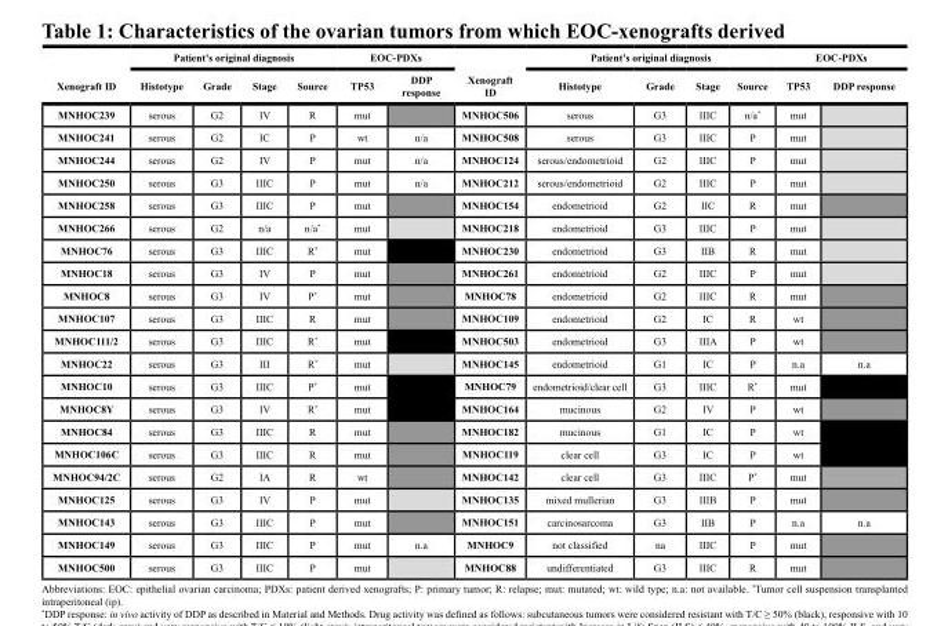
<table><thead><tr><td rowspan="2">Xenograft ID</td><td colspan="4">Patient’s original diagnosis</td><td colspan="2">EOC-PDXs</td><td rowspan="2">Xenograft ID</td><td colspan="4">Patient’s original diagnosis</td><td colspan="2">EOC-PDXs</td></tr><tr><td>Histotype</td><td>Grade</td><td>Stage</td><td>Source</td><td>TP53</td><td>DDP response</td><td>Histotype</td><td>Grade</td><td>Stage</td><td>Source</td><td>TP53</td><td>DDP response</td></tr></thead><tbody><tr><td>MNHOC239</td><td>serous</td><td>G2</td><td>IV</td><td>R</td><td>mut</td><td></td><td>MNHOC506</td><td>serous</td><td>G3</td><td>IIIC</td><td>n/a*</td><td>mut</td><td></td></tr><tr><td>MNHOC241</td><td>serous</td><td>G2</td><td>IC</td><td>P</td><td>wt</td><td>n/a</td><td>MNHOC508</td><td>serous</td><td>G3</td><td>IIIC</td><td>P</td><td>mut</td><td></td></tr><tr><td>MNHOC244</td><td>serous</td><td>G2</td><td>IV</td><td>P</td><td>mut</td><td>n/a</td><td>MNHOC124</td><td>serous/endometrioid</td><td>G2</td><td>IIIC</td><td>P</td><td>mut</td><td></td></tr><tr><td>MNHOC250</td><td>serous</td><td>G3</td><td>IIIC</td><td>P</td><td>mut</td><td>n/a</td><td>MNHOC212</td><td>serous/endometrioid</td><td>G2</td><td>IIIC</td><td>P</td><td>mut</td><td></td></tr><tr><td>MNHOC258</td><td>serous</td><td>G3</td><td>IIIC</td><td>P</td><td>mut</td><td></td><td>MNHOC154</td><td>endometrioid</td><td>G2</td><td>IIC</td><td>R</td><td>mut</td><td></td></tr><tr><td>MNHOC266</td><td>serous</td><td>G2</td><td>n/a</td><td>n/a*</td><td>mut</td><td></td><td>MNHOC218</td><td>endometrioid</td><td>G3</td><td>IIIC</td><td>P</td><td>mut</td><td></td></tr><tr><td>MNHOC76</td><td>serous</td><td>G3</td><td>IIIC</td><td>R*</td><td>mut</td><td></td><td>MNHOC230</td><td>endometrioid</td><td>G3</td><td>IIB</td><td>R</td><td>mut</td><td></td></tr><tr><td>MNHOC18</td><td>serous</td><td>G3</td><td>IV</td><td>P</td><td>mut</td><td></td><td>MNHOC261</td><td>endometrioid</td><td>G2</td><td>IIIC</td><td>P</td><td>mut</td><td></td></tr><tr><td>MNHOC8</td><td>serous</td><td>G3</td><td>IV</td><td>P*</td><td>mut</td><td></td><td>MNHOC78</td><td>endometrioid</td><td>G2</td><td>IIIC</td><td>R</td><td>mut</td><td></td></tr><tr><td>MNHOC107</td><td>serous</td><td>G3</td><td>IIIC</td><td>R</td><td>mut</td><td></td><td>MNHOC109</td><td>endometrioid</td><td>G2</td><td>IC</td><td>R</td><td>wt</td><td></td></tr><tr><td>MNHOC111/2</td><td>serous</td><td>G3</td><td>IIIC</td><td>R*</td><td>mut</td><td></td><td>MNHOC503</td><td>endometrioid</td><td>G3</td><td>IIIA</td><td>P</td><td>wt</td><td></td></tr><tr><td>MNHOC22</td><td>serous</td><td>G3</td><td>III</td><td>R*</td><td>mut</td><td></td><td>MNHOC145</td><td>endometrioid</td><td>G1</td><td>IC</td><td>P</td><td>n.a</td><td>n.a</td></tr><tr><td>MNHOC10</td><td>serous</td><td>G3</td><td>IIIC</td><td>P*</td><td>mut</td><td></td><td>MNHOC79</td><td>endometrioid/clear cell</td><td>G3</td><td>IIIC</td><td>R*</td><td>mut</td><td></td></tr><tr><td>MNHOC8Y</td><td>serous</td><td>G3</td><td>IV</td><td>R*</td><td>mut</td><td></td><td>MNHOC164</td><td>mucinous</td><td>G2</td><td>IV</td><td>P</td><td>wt</td><td></td></tr><tr><td>MNHOC84</td><td>serous</td><td>G3</td><td>IIIC</td><td>R</td><td>mut</td><td></td><td>MNHOC182</td><td>mucinous</td><td>G1</td><td>IC</td><td>P</td><td>wt</td><td></td></tr><tr><td>MNHOC106C</td><td>serous</td><td>G3</td><td>IIIC</td><td>R</td><td>mut</td><td></td><td>MNHOC119</td><td>clear cell</td><td>G3</td><td>IC</td><td>P</td><td>wt</td><td></td></tr><tr><td>MNHOC94/2C</td><td>serous</td><td>G2</td><td>IA</td><td>R</td><td>wt</td><td></td><td>MNHOC142</td><td>clear cell</td><td>G3</td><td>IIIC</td><td>P*</td><td>mut</td><td></td></tr><tr><td>MNHOC125</td><td>serous</td><td>G3</td><td>IV</td><td>P</td><td>mut</td><td></td><td>MNHOC135</td><td>mixed mullerian</td><td>G3</td><td>IIIB</td><td>P</td><td>mut</td><td></td></tr><tr><td>MNHOC143</td><td>serous</td><td>G3</td><td>IIIC</td><td>P</td><td>mut</td><td></td><td>MNHOC151</td><td>carcinosarcoma</td><td>G3</td><td>IIB</td><td>P</td><td>n.a</td><td>n.a</td></tr><tr><td>MNHOC149</td><td>serous</td><td>G3</td><td>IIIC</td><td>P</td><td>mut</td><td>n.a</td><td>MNHOC9</td><td>not classified</td><td>na</td><td>IIIC</td><td>P</td><td>mut</td><td></td></tr><tr><td>MNHOC500</td><td>serous</td><td>G3</td><td>IIIC</td><td>P</td><td>mut</td><td></td><td>MNHOC88</td><td>undifferentiated</td><td>G3</td><td>IIIC</td><td>R</td><td>mut</td><td></td></tr></tbody></table>